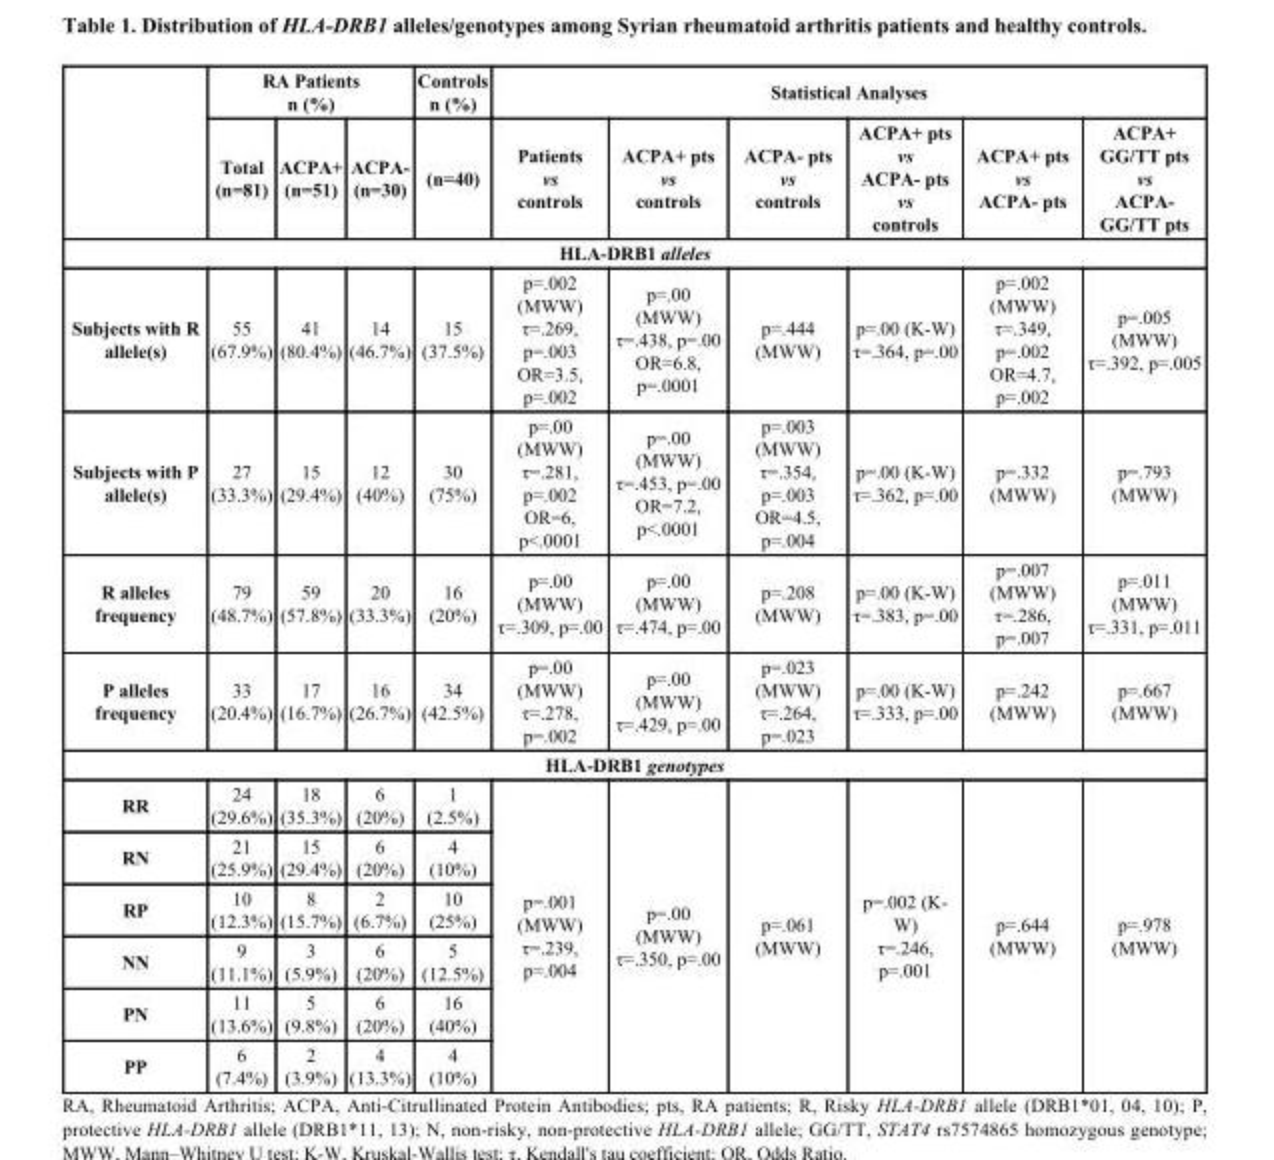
<table><thead><tr><td rowspan="2"></td><td colspan="3">RA Patients n (%)</td><td rowspan="2">Controls n (%) (n=40)</td><td colspan="6">Statistical Analyses</td></tr><tr><td>Total (n=81)</td><td>ACPA+ (n=51)</td><td>ACPA- (n=30)</td><td>Patients vs controls</td><td>ACPA+ pts vs controls</td><td>ACPA- pts vs controls</td><td>ACPA+ pts vs ACPA- pts vs controls</td><td>ACPA+ pts vs ACPA- pts</td><td>ACPA+ GG/TT pts vs ACPA- GG/TT pts</td></tr></thead><tbody><tr><td colspan="11">HLA-DRB1 alleles</td></tr><tr><td>Subjects with R allele(s)</td><td>55 (67.9%)</td><td>41 (80.4%)</td><td>14 (46.7%)</td><td>15 (37.5%)</td><td>p=.002 (MWW) τ=.269, p=.003 OR=3.5, p=.002</td><td>p=.00 (MWW) τ=.438, p=.00 OR=6.8, p=.0001</td><td>p=.444 (MWW)</td><td>p=.00 (K-W) τ=.364, p=.00</td><td>p=.002 (MWW) τ=.349, p=.002 OR=4.7, p=.002</td><td>p=.005 (MWW) τ=.392, p=.005</td></tr><tr><td>Subjects with P allele(s)</td><td>27 (33.3%)</td><td>15 (29.4%)</td><td>12 (40%)</td><td>30 (75%)</td><td>p=.00 (MWW) τ=.281, p=.002 OR=6, p&lt;.0001</td><td>p=.00 (MWW) τ=.453, p=.00 OR=7.2, p&lt;.0001</td><td>p=.003 (MWW) τ=.354, p=.003 OR=4.5, p=.004</td><td>p=.00 (K-W) τ=.362, p=.00</td><td>p=.332 (MWW)</td><td>p=.793 (MWW)</td></tr><tr><td>R alleles frequency</td><td>79 (48.7%)</td><td>59 (57.8%)</td><td>20 (33.3%)</td><td>16 (20%)</td><td>p=.00 (MWW) τ=.309, p=.00</td><td>p=.00 (MWW) τ=.474, p=.00</td><td>p=.208 (MWW)</td><td>p=.00 (K-W) τ=.383, p=.00</td><td>p=.007 (MWW) τ=.286, p=.007</td><td>p=.011 (MWW) τ=.331, p=.011</td></tr><tr><td>P alleles frequency</td><td>33 (20.4%)</td><td>17 (16.7%)</td><td>16 (26.7%)</td><td>34 (42.5%)</td><td>p=.00 (MWW) τ=.278, p=.002</td><td>p=.00 (MWW) τ=.429, p=.00</td><td>p=.023 (MWW) τ=.264, p=.023</td><td>p=.00 (K-W) τ=.333, p=.00</td><td>p=.242 (MWW)</td><td>p=.667 (MWW)</td></tr><tr><td colspan="11">HLA-DRB1 genotypes</td></tr><tr><td>RR</td><td>24 (29.6%)</td><td>18 (35.3%)</td><td>6 (20%)</td><td>1 (2.5%)</td><td rowspan="6">p=.001 (MWW) τ=.239, p=.004</td><td rowspan="6">p=.00 (MWW) τ=.350, p=.00</td><td rowspan="6">p=.061 (MWW)</td><td rowspan="6">p=.002 (K- W) τ=.246, p=.001</td><td rowspan="6">p=.644 (MWW)</td><td rowspan="6">p=.978 (MWW)</td></tr><tr><td>RN</td><td>21 (25.9%)</td><td>15 (29.4%)</td><td>6 (20%)</td><td>4 (10%)</td></tr><tr><td>RP</td><td>10 (12.3%)</td><td>8 (15.7%)</td><td>2 (6.7%)</td><td>10 (25%)</td></tr><tr><td>NN</td><td>9 (11.1%)</td><td>3 (5.9%)</td><td>6 (20%)</td><td>5 (12.5%)</td></tr><tr><td>PN</td><td>11 (13.6%)</td><td>5 (9.8%)</td><td>6 (20%)</td><td>16 (40%)</td></tr><tr><td>PP</td><td>6 (7.4%)</td><td>2 (3.9%)</td><td>4 (13.3%)</td><td>4 (10%)</td></tr></tbody></table>